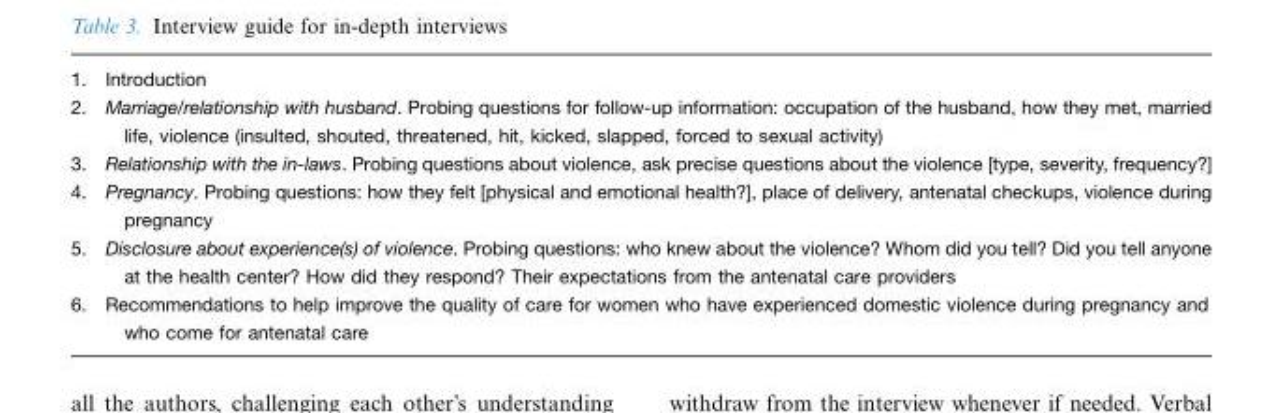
<table><tbody><tr><td>1.</td><td>Introduction</td></tr><tr><td>2.</td><td>Marriage/relationship with husband. Probing questions for follow-up information: occupation of the husband, how they met, married life, violence (insulted, shouted, threatened, hit, kicked, slapped, forced to sexual activity)</td></tr><tr><td>3.</td><td>Relationship with the in-laws. Probing questions about violence, ask precise questions about the violence [type, severity, frequency?]</td></tr><tr><td>4.</td><td>Pregnancy. Probing questions: how they felt [physical and emotional health?], place of delivery, antenatal checkups, violence during pregnancy</td></tr><tr><td>5.</td><td>Disclosure about experience(s) of violence. Probing questions: who knew about the violence? Whom did you tell? Did you tell anyone at the health center? How did they respond? Their expectations from the antenatal care providers</td></tr><tr><td>6.</td><td>Recommendations to help improve the quality of care for women who have experienced domestic violence during pregnancy and who come for antenatal care</td></tr></tbody></table>